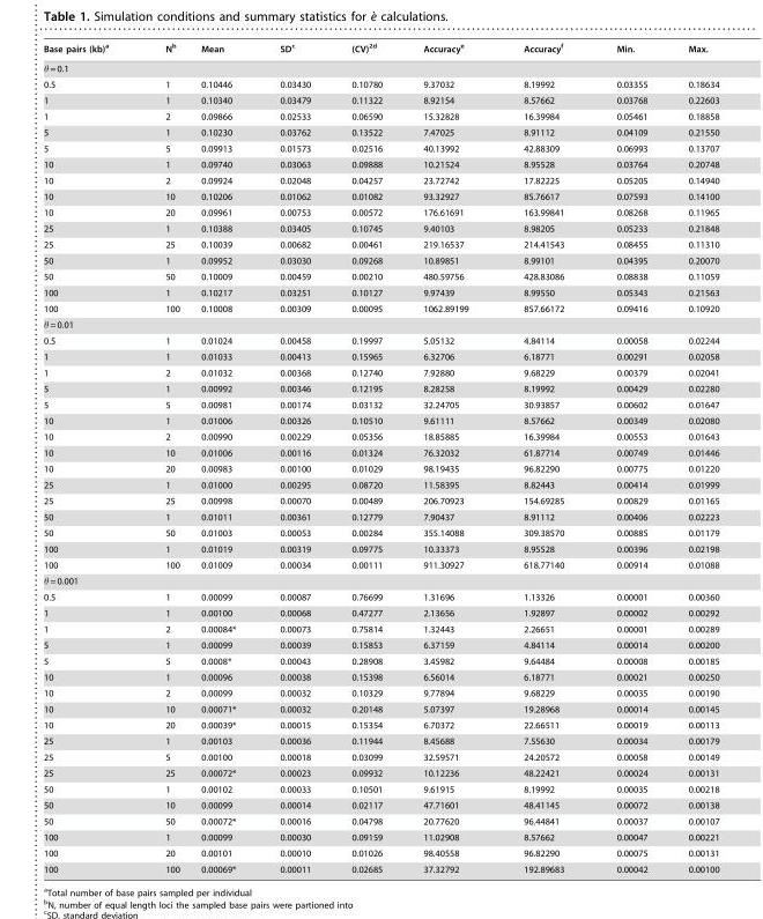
<table><thead><tr><td>Base pairs (kb)<sup>a</sup></td><td>N<sup>b</sup></td><td>Mean</td><td>SD<sup>c</sup></td><td>(CV)<sup>2</sup>d</td><td>Accuracy<sup>e</sup></td><td>Accuracy<sup>f</sup></td><td>Min.</td><td>Max.</td></tr></thead><tbody><tr><td colspan="9">θ = 0.1</td></tr><tr><td>0.5</td><td>1</td><td>0.10446</td><td>0.03430</td><td>0.10780</td><td>9.37032</td><td>8.19992</td><td>0.03355</td><td>0.18634</td></tr><tr><td>1</td><td>1</td><td>0.10340</td><td>0.03479</td><td>0.11322</td><td>8.92154</td><td>8.57662</td><td>0.03768</td><td>0.22603</td></tr><tr><td>1</td><td>2</td><td>0.09866</td><td>0.02533</td><td>0.06590</td><td>15.32828</td><td>16.39984</td><td>0.05461</td><td>0.18858</td></tr><tr><td>5</td><td>1</td><td>0.10230</td><td>0.03762</td><td>0.13522</td><td>7.47025</td><td>8.91112</td><td>0.04109</td><td>0.21550</td></tr><tr><td>5</td><td>5</td><td>0.09913</td><td>0.01573</td><td>0.02516</td><td>40.13992</td><td>42.88309</td><td>0.06993</td><td>0.13707</td></tr><tr><td>10</td><td>1</td><td>0.09740</td><td>0.03063</td><td>0.09888</td><td>10.21524</td><td>8.95528</td><td>0.03764</td><td>0.20748</td></tr><tr><td>10</td><td>2</td><td>0.09924</td><td>0.02048</td><td>0.04257</td><td>23.72742</td><td>17.82225</td><td>0.05205</td><td>0.14940</td></tr><tr><td>10</td><td>10</td><td>0.10206</td><td>0.01062</td><td>0.01082</td><td>93.32927</td><td>85.76617</td><td>0.07593</td><td>0.14100</td></tr><tr><td>10</td><td>20</td><td>0.09961</td><td>0.00753</td><td>0.00572</td><td>176.61691</td><td>163.99841</td><td>0.08268</td><td>0.11965</td></tr><tr><td>25</td><td>1</td><td>0.10388</td><td>0.03405</td><td>0.10745</td><td>9.40103</td><td>8.98205</td><td>0.05233</td><td>0.21848</td></tr><tr><td>25</td><td>25</td><td>0.10039</td><td>0.00682</td><td>0.00461</td><td>219.16537</td><td>214.41543</td><td>0.08455</td><td>0.11310</td></tr><tr><td>50</td><td>1</td><td>0.09952</td><td>0.03030</td><td>0.09268</td><td>10.89851</td><td>8.99101</td><td>0.04395</td><td>0.20070</td></tr><tr><td>50</td><td>50</td><td>0.10009</td><td>0.00459</td><td>0.00210</td><td>480.59756</td><td>428.83086</td><td>0.08838</td><td>0.11059</td></tr><tr><td>100</td><td>1</td><td>0.10217</td><td>0.03251</td><td>0.10127</td><td>9.97439</td><td>8.99550</td><td>0.05343</td><td>0.21563</td></tr><tr><td>100</td><td>100</td><td>0.10008</td><td>0.00309</td><td>0.00095</td><td>1062.89199</td><td>857.66172</td><td>0.09416</td><td>0.10920</td></tr><tr><td colspan="9">θ = 0.01</td></tr><tr><td>0.5</td><td>1</td><td>0.01024</td><td>0.00458</td><td>0.19997</td><td>5.05132</td><td>4.84114</td><td>0.00058</td><td>0.02244</td></tr><tr><td>1</td><td>1</td><td>0.01033</td><td>0.00413</td><td>0.15965</td><td>6.32706</td><td>6.18771</td><td>0.00291</td><td>0.02058</td></tr><tr><td>1</td><td>2</td><td>0.01032</td><td>0.00368</td><td>0.12740</td><td>7.92880</td><td>9.68229</td><td>0.00379</td><td>0.02041</td></tr><tr><td>5</td><td>1</td><td>0.00992</td><td>0.00346</td><td>0.12195</td><td>8.28258</td><td>8.19992</td><td>0.00429</td><td>0.02280</td></tr><tr><td>5</td><td>5</td><td>0.00981</td><td>0.00174</td><td>0.03132</td><td>32.24705</td><td>30.93857</td><td>0.00602</td><td>0.01647</td></tr><tr><td>10</td><td>1</td><td>0.01006</td><td>0.00326</td><td>0.10510</td><td>9.61111</td><td>8.57662</td><td>0.00349</td><td>0.02080</td></tr><tr><td>10</td><td>2</td><td>0.00990</td><td>0.00229</td><td>0.05356</td><td>18.85885</td><td>16.39984</td><td>0.00553</td><td>0.01643</td></tr><tr><td>10</td><td>10</td><td>0.01006</td><td>0.00116</td><td>0.01324</td><td>76.32032</td><td>61.87714</td><td>0.00749</td><td>0.01446</td></tr><tr><td>10</td><td>20</td><td>0.00983</td><td>0.00100</td><td>0.01029</td><td>98.19435</td><td>96.82290</td><td>0.00775</td><td>0.01220</td></tr><tr><td>25</td><td>1</td><td>0.01000</td><td>0.00295</td><td>0.08720</td><td>11.58395</td><td>8.82443</td><td>0.00414</td><td>0.01999</td></tr><tr><td>25</td><td>25</td><td>0.00998</td><td>0.00070</td><td>0.00489</td><td>206.70923</td><td>154.69285</td><td>0.00829</td><td>0.01165</td></tr><tr><td>50</td><td>1</td><td>0.01011</td><td>0.00361</td><td>0.12779</td><td>7.90437</td><td>8.91112</td><td>0.00406</td><td>0.02223</td></tr><tr><td>50</td><td>50</td><td>0.01003</td><td>0.00053</td><td>0.00284</td><td>355.14088</td><td>309.38570</td><td>0.00885</td><td>0.01179</td></tr><tr><td>100</td><td>1</td><td>0.01019</td><td>0.00319</td><td>0.09775</td><td>10.33373</td><td>8.95528</td><td>0.00396</td><td>0.02198</td></tr><tr><td>100</td><td>100</td><td>0.01009</td><td>0.00034</td><td>0.00111</td><td>911.30927</td><td>618.77140</td><td>0.00914</td><td>0.01088</td></tr><tr><td colspan="9">θ = 0.001</td></tr><tr><td>0.5</td><td>1</td><td>0.00099</td><td>0.00087</td><td>0.76699</td><td>1.31696</td><td>1.13326</td><td>0.00001</td><td>0.00360</td></tr><tr><td>1</td><td>1</td><td>0.00100</td><td>0.00068</td><td>0.47277</td><td>2.13656</td><td>1.92897</td><td>0.00002</td><td>0.00292</td></tr><tr><td>1</td><td>2</td><td>0.00084*</td><td>0.00073</td><td>0.75814</td><td>1.32443</td><td>2.26651</td><td>0.00001</td><td>0.00289</td></tr><tr><td>5</td><td>1</td><td>0.00099</td><td>0.00039</td><td>0.15853</td><td>6.37159</td><td>4.84114</td><td>0.00014</td><td>0.00200</td></tr><tr><td>5</td><td>5</td><td>0.0008*</td><td>0.00043</td><td>0.28908</td><td>3.45982</td><td>9.64484</td><td>0.00008</td><td>0.00185</td></tr><tr><td>10</td><td>1</td><td>0.00096</td><td>0.00038</td><td>0.15398</td><td>6.56014</td><td>6.18771</td><td>0.00021</td><td>0.00250</td></tr><tr><td>10</td><td>2</td><td>0.00099</td><td>0.00032</td><td>0.10329</td><td>9.77894</td><td>9.68229</td><td>0.00035</td><td>0.00190</td></tr><tr><td>10</td><td>10</td><td>0.00071*</td><td>0.00032</td><td>0.20148</td><td>5.07397</td><td>19.28968</td><td>0.00014</td><td>0.00145</td></tr><tr><td>10</td><td>20</td><td>0.00039*</td><td>0.00015</td><td>0.15354</td><td>6.70372</td><td>22.66511</td><td>0.00019</td><td>0.00113</td></tr><tr><td>25</td><td>1</td><td>0.00103</td><td>0.00036</td><td>0.11944</td><td>8.45688</td><td>7.55630</td><td>0.00034</td><td>0.00179</td></tr><tr><td>25</td><td>5</td><td>0.00100</td><td>0.00018</td><td>0.03099</td><td>32.59571</td><td>24.20572</td><td>0.00058</td><td>0.00149</td></tr><tr><td>25</td><td>25</td><td>0.00072*</td><td>0.00023</td><td>0.09932</td><td>10.12236</td><td>48.22421</td><td>0.00024</td><td>0.00131</td></tr><tr><td>50</td><td>1</td><td>0.00102</td><td>0.00033</td><td>0.10501</td><td>9.61915</td><td>8.19992</td><td>0.00035</td><td>0.00218</td></tr><tr><td>50</td><td>10</td><td>0.00099</td><td>0.00014</td><td>0.02117</td><td>47.71601</td><td>48.41145</td><td>0.00072</td><td>0.00138</td></tr><tr><td>50</td><td>50</td><td>0.00072*</td><td>0.00016</td><td>0.04798</td><td>20.77620</td><td>96.44841</td><td>0.00037</td><td>0.00107</td></tr><tr><td>100</td><td>1</td><td>0.00099</td><td>0.00030</td><td>0.09159</td><td>11.02908</td><td>8.57662</td><td>0.00047</td><td>0.00221</td></tr><tr><td>100</td><td>20</td><td>0.00101</td><td>0.00010</td><td>0.01026</td><td>98.40558</td><td>96.82290</td><td>0.00075</td><td>0.00131</td></tr><tr><td>100</td><td>100</td><td>0.00069*</td><td>0.00011</td><td>0.02685</td><td>37.32792</td><td>192.89683</td><td>0.00042</td><td>0.00100</td></tr></tbody></table>